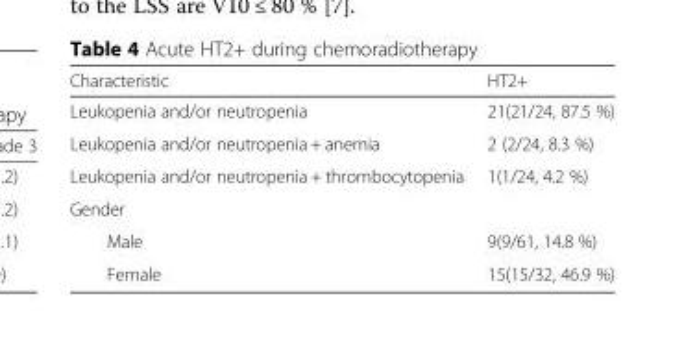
<table><thead><tr><td>Characteristic</td><td>HT2+</td></tr></thead><tbody><tr><td>Leukopenia and/or neutropenia</td><td>21(21/24, 87.5 %)</td></tr><tr><td>Leukopenia and/or neutropenia + anemia</td><td>2 (2/24, 8.3 %)</td></tr><tr><td>Leukopenia and/or neutropenia + thrombocytopenia</td><td>1(1/24, 4.2 %)</td></tr><tr><td colspan="2">Gender</td></tr><tr><td>Male</td><td>9(9/61, 14.8 %)</td></tr><tr><td>Female</td><td>15(15/32, 46.9 %)</td></tr></tbody></table>